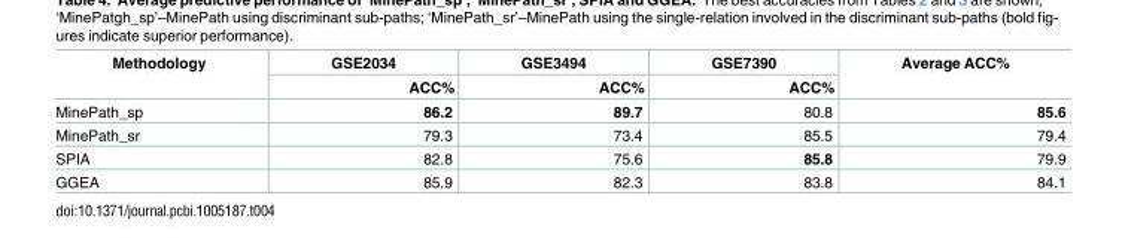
<table><thead><tr><td rowspan="2">Methodology</td><td rowspan="2">GSE2034 ACC%</td><td rowspan="2">GSE3494 ACC%</td><td rowspan="2">GSE7390 ACC%</td><td rowspan="2">Average ACC%</td></tr><tr></tr></thead><tbody><tr><td>MinePath_sp</td><td>86.2</td><td>89.7</td><td>80.8</td><td>85.6</td></tr><tr><td>MinePath_sr</td><td>79.3</td><td>73.4</td><td>85.5</td><td>79.4</td></tr><tr><td>SPIA</td><td>82.8</td><td>75.6</td><td>85.8</td><td>79.9</td></tr><tr><td>GGEA</td><td>85.9</td><td>82.3</td><td>83.8</td><td>84.1</td></tr></tbody></table>